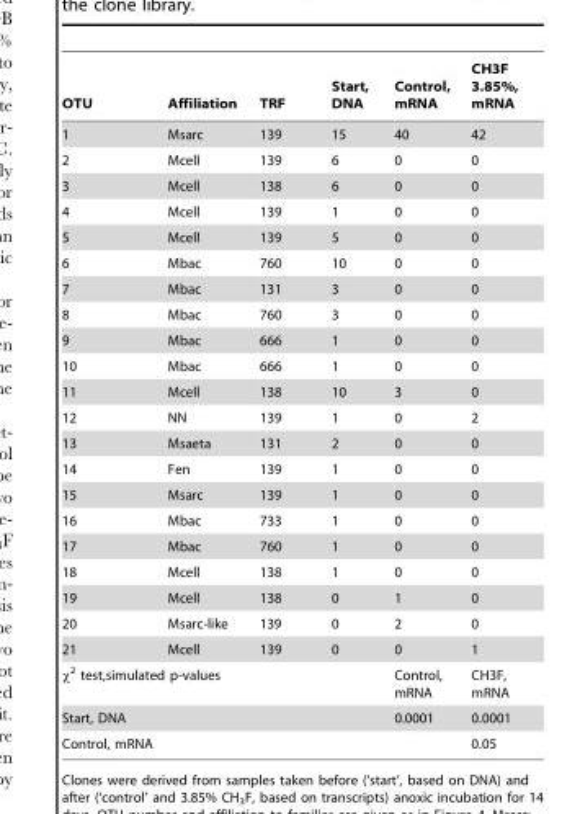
<table><thead><tr><td>OTU</td><td>Affiliation</td><td>TRF</td><td>Start, DNA</td><td>Control, mRNA</td><td>CH3F 3.85%, mRNA</td></tr></thead><tbody><tr><td>1</td><td>Msarc</td><td>139</td><td>15</td><td>40</td><td>42</td></tr><tr><td>2</td><td>Mcell</td><td>139</td><td>6</td><td>0</td><td>0</td></tr><tr><td>3</td><td>Mcell</td><td>138</td><td>6</td><td>0</td><td>0</td></tr><tr><td>4</td><td>Mcell</td><td>139</td><td>1</td><td>0</td><td>0</td></tr><tr><td>5</td><td>Mcell</td><td>139</td><td>5</td><td>0</td><td>0</td></tr><tr><td>6</td><td>Mbac</td><td>760</td><td>10</td><td>0</td><td>0</td></tr><tr><td>7</td><td>Mbac</td><td>131</td><td>3</td><td>0</td><td>0</td></tr><tr><td>8</td><td>Mbac</td><td>760</td><td>3</td><td>0</td><td>0</td></tr><tr><td>9</td><td>Mbac</td><td>666</td><td>1</td><td>0</td><td>0</td></tr><tr><td>10</td><td>Mbac</td><td>666</td><td>1</td><td>0</td><td>0</td></tr><tr><td>11</td><td>Mcell</td><td>138</td><td>10</td><td>3</td><td>0</td></tr><tr><td>12</td><td>NN</td><td>139</td><td>1</td><td>0</td><td>2</td></tr><tr><td>13</td><td>Msaeta</td><td>131</td><td>2</td><td>0</td><td>0</td></tr><tr><td>14</td><td>Fen</td><td>139</td><td>1</td><td>0</td><td>0</td></tr><tr><td>15</td><td>Msarc</td><td>139</td><td>1</td><td>0</td><td>0</td></tr><tr><td>16</td><td>Mbac</td><td>733</td><td>1</td><td>0</td><td>0</td></tr><tr><td>17</td><td>Mbac</td><td>760</td><td>1</td><td>0</td><td>0</td></tr><tr><td>18</td><td>Mcell</td><td>138</td><td>1</td><td>0</td><td>0</td></tr><tr><td>19</td><td>Mcell</td><td>138</td><td>0</td><td>1</td><td>0</td></tr><tr><td>20</td><td>Msarc-like</td><td>139</td><td>0</td><td>2</td><td>0</td></tr><tr><td>21</td><td>Mcell</td><td>139</td><td>0</td><td>0</td><td>1</td></tr><tr><td colspan="4">χ<sup>2</sup> test,simulated p-values</td><td>Control, mRNA</td><td>CH3F, mRNA</td></tr><tr><td colspan="4">Start, DNA</td><td>0.0001</td><td>0.0001</td></tr><tr><td colspan="4">Control, mRNA</td><td></td><td>0.05</td></tr></tbody></table>